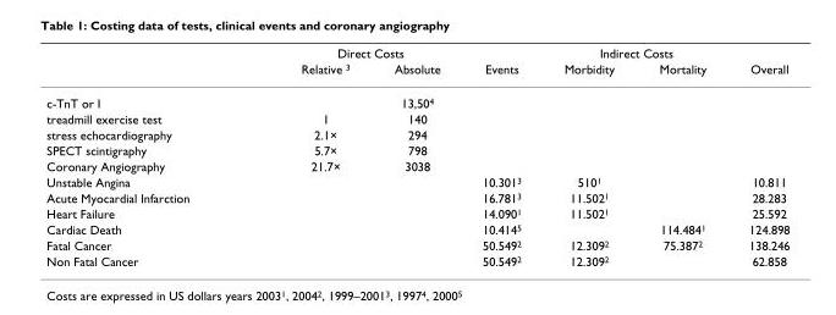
<table><thead><tr><td rowspan="2"></td><td colspan="2">Direct Costs</td><td colspan="4">Indirect Costs</td></tr><tr><td>Relative <sup>3</sup></td><td>Absolute</td><td>Events</td><td>Morbidity</td><td>Mortality</td><td>Overall</td></tr></thead><tbody><tr><td>c-TnT or I</td><td></td><td>13,50<sup>4</sup></td><td></td><td></td><td></td><td></td></tr><tr><td>treadmill exercise test</td><td>1</td><td>140</td><td></td><td></td><td></td><td></td></tr><tr><td>stress echocardiography</td><td>2.1×</td><td>294</td><td></td><td></td><td></td><td></td></tr><tr><td>SPECT scintigraphy</td><td>5.7×</td><td>798</td><td></td><td></td><td></td><td></td></tr><tr><td>Coronary Angiography</td><td>21.7×</td><td>3038</td><td></td><td></td><td></td><td></td></tr><tr><td>Unstable Angina</td><td></td><td></td><td>10.301<sup>3</sup></td><td>510<sup>1</sup></td><td></td><td>10.811</td></tr><tr><td>Acute Myocardial Infarction</td><td></td><td></td><td>16.781<sup>3</sup></td><td>11.502<sup>1</sup></td><td></td><td>28.283</td></tr><tr><td>Heart Failure</td><td></td><td></td><td>14.090<sup>1</sup></td><td>11.502<sup>1</sup></td><td></td><td>25.592</td></tr><tr><td>Cardiac Death</td><td></td><td></td><td>10.414<sup>5</sup></td><td></td><td>114.484<sup>1</sup></td><td>124.898</td></tr><tr><td>Fatal Cancer</td><td></td><td></td><td>50.549<sup>2</sup></td><td>12.309<sup>2</sup></td><td>75.387<sup>2</sup></td><td>138.246</td></tr><tr><td>Non Fatal Cancer</td><td></td><td></td><td>50.549<sup>2</sup></td><td>12.309<sup>2</sup></td><td></td><td>62.858</td></tr></tbody></table>